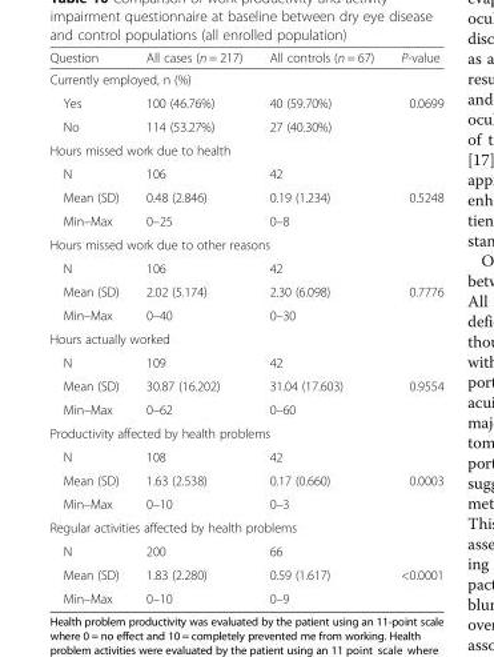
<table><thead><tr><td>Question</td><td>All cases (n = 217)</td><td>All controls (n = 67)</td><td>P-value</td></tr></thead><tbody><tr><td colspan="4">Currently employed, n (%)</td></tr><tr><td>Yes</td><td>100 (46.76%)</td><td>40 (59.70%)</td><td>0.0699</td></tr><tr><td>No</td><td>114 (53.27%)</td><td>27 (40.30%)</td><td></td></tr><tr><td colspan="4">Hours missed work due to health</td></tr><tr><td>N</td><td>106</td><td>42</td><td></td></tr><tr><td>Mean (SD)</td><td>0.48 (2.846)</td><td>0.19 (1.234)</td><td>0.5248</td></tr><tr><td>Min–Max</td><td>0–25</td><td>0–8</td><td></td></tr><tr><td colspan="4">Hours missed work due to other reasons</td></tr><tr><td>N</td><td>106</td><td>42</td><td></td></tr><tr><td>Mean (SD)</td><td>2.02 (5.174)</td><td>2.30 (6.098)</td><td>0.7776</td></tr><tr><td>Min–Max</td><td>0–40</td><td>0–30</td><td></td></tr><tr><td colspan="4">Hours actually worked</td></tr><tr><td>N</td><td>109</td><td>42</td><td></td></tr><tr><td>Mean (SD)</td><td>30.87 (16.202)</td><td>31.04 (17.603)</td><td>0.9554</td></tr><tr><td>Min–Max</td><td>0–62</td><td>0–60</td><td></td></tr><tr><td colspan="4">Productivity affected by health problems</td></tr><tr><td>N</td><td>108</td><td>42</td><td></td></tr><tr><td>Mean (SD)</td><td>1.63 (2.538)</td><td>0.17 (0.660)</td><td>0.0003</td></tr><tr><td>Min–Max</td><td>0–10</td><td>0–3</td><td></td></tr><tr><td colspan="4">Regular activities affected by health problems</td></tr><tr><td>N</td><td>200</td><td>66</td><td></td></tr><tr><td>Mean (SD)</td><td>1.83 (2.280)</td><td>0.59 (1.617)</td><td>&lt;0.0001</td></tr><tr><td>Min–Max</td><td>0–10</td><td>0–9</td><td></td></tr></tbody></table>